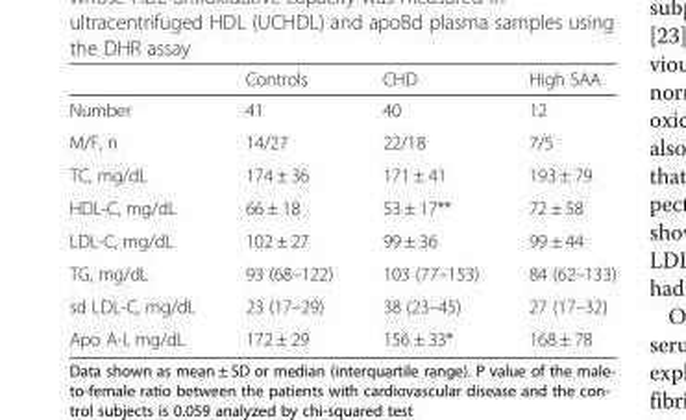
<table><thead><tr><td></td><td>Controls</td><td>CHD</td><td>High SAA</td></tr></thead><tbody><tr><td>Number</td><td>41</td><td>40</td><td>12</td></tr><tr><td>M/F, n</td><td>14/27</td><td>22/18</td><td>7/5</td></tr><tr><td>TC, mg/dL</td><td>174 ± 36</td><td>171 ± 41</td><td>193 ± 79</td></tr><tr><td>HDL-C, mg/dL</td><td>66 ± 18</td><td>53 ± 17**</td><td>72 ± 58</td></tr><tr><td>LDL-C, mg/dL</td><td>102 ± 27</td><td>99 ± 36</td><td>99 ± 44</td></tr><tr><td>TG, mg/dL</td><td>93 (68–122)</td><td>103 (77–153)</td><td>84 (62–133)</td></tr><tr><td>sd LDL-C, mg/dL</td><td>23 (17–29)</td><td>38 (23–45)</td><td>27 (17–32)</td></tr><tr><td>Apo A-I, mg/dL</td><td>172 ± 29</td><td>156 ± 33*</td><td>168 ± 78</td></tr></tbody></table>